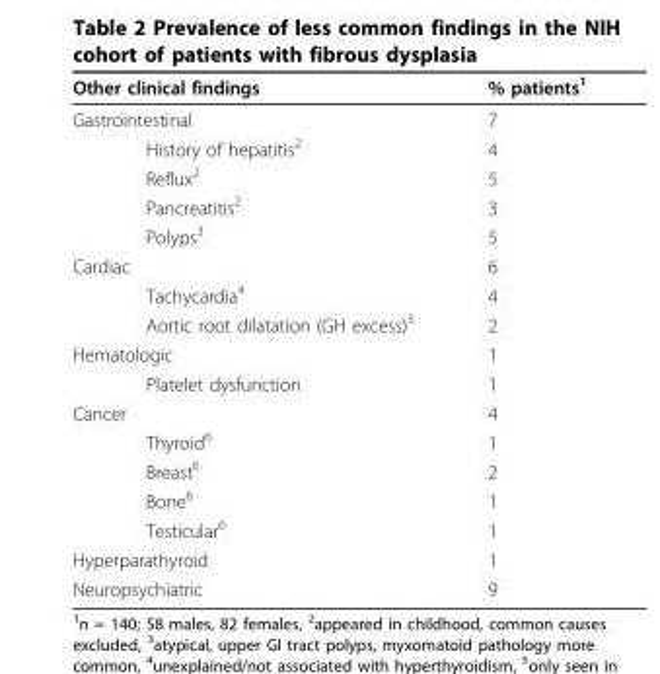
<table><thead><tr><td>Other clinical findings</td><td>% patients<sup>1</sup></td></tr></thead><tbody><tr><td>Gastrointestinal</td><td>7</td></tr><tr><td>History of hepatitis<sup>2</sup></td><td>4</td></tr><tr><td>Reflux<sup>2</sup></td><td>5</td></tr><tr><td>Pancreatitis<sup>2</sup></td><td>3</td></tr><tr><td>Polyps<sup>3</sup></td><td>5</td></tr><tr><td>Cardiac</td><td>6</td></tr><tr><td>Tachycardia<sup>4</sup></td><td>4</td></tr><tr><td>Aortic root dilatation (GH excess)<sup>5</sup></td><td>2</td></tr><tr><td>Hematologic</td><td>1</td></tr><tr><td>Platelet dysfunction</td><td>1</td></tr><tr><td>Cancer</td><td>4</td></tr><tr><td>Thyroid<sup>6</sup></td><td>1</td></tr><tr><td>Breast<sup>6</sup></td><td>2</td></tr><tr><td>Bone<sup>6</sup></td><td>1</td></tr><tr><td>Testicular<sup>6</sup></td><td>1</td></tr><tr><td>Hyperparathyroid</td><td>1</td></tr><tr><td>Neuropsychiatric</td><td>9</td></tr></tbody></table>